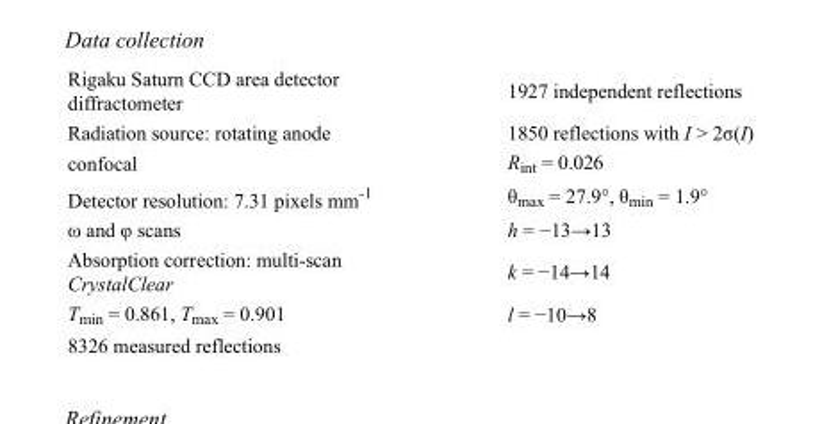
<table><tbody><tr><td>Rigaku Saturn CCD area detector diffractometer</td><td>1927 independent reflections</td></tr><tr><td>Radiation source: rotating anode</td><td>1850 reflections with I &gt; 2σ(I)</td></tr><tr><td>confocal</td><td>R<sub>int</sub> = 0.026</td></tr><tr><td>Detector resolution: 7.31 pixels mm<sup>-1</sup></td><td>θ<sub>max</sub> = 27.9°, θ<sub>min</sub> = 1.9°</td></tr><tr><td>ω and φ scans</td><td>h = −13→13</td></tr><tr><td>Absorption correction: multi-scan CrystalClear</td><td>k = −14→14</td></tr><tr><td>T<sub>min</sub> = 0.861, T<sub>max</sub> = 0.901</td><td>l = −10→8</td></tr><tr><td>8326 measured reflections</td><td></td></tr></tbody></table>